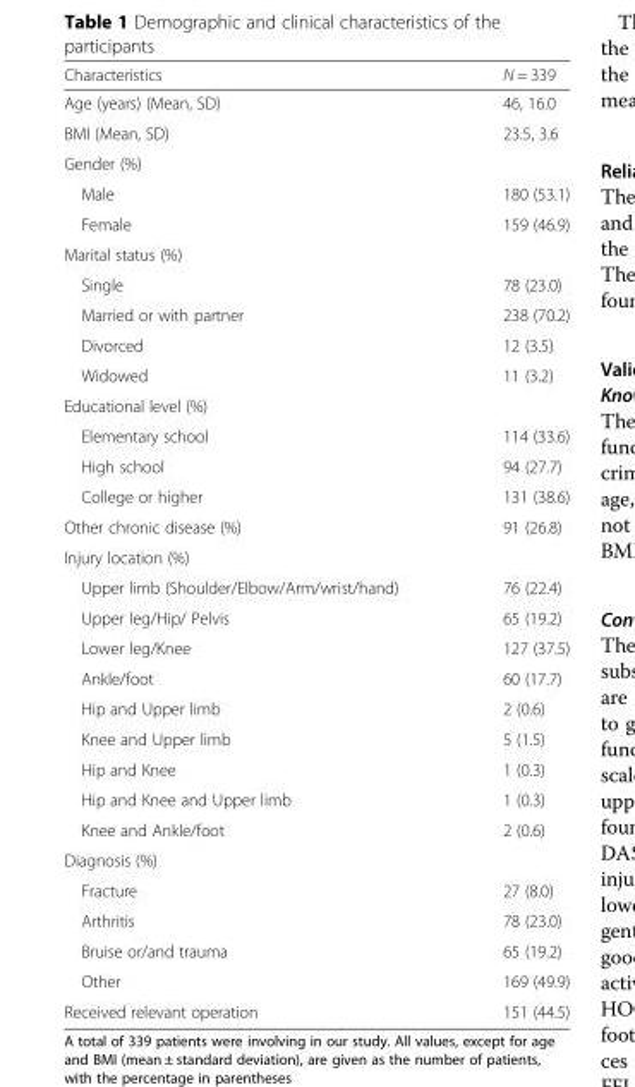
<table><thead><tr><td>Characteristics</td><td>N = 339</td></tr></thead><tbody><tr><td>Age (years) (Mean, SD)</td><td>46, 16.0</td></tr><tr><td>BMI (Mean, SD)</td><td>23.5, 3.6</td></tr><tr><td colspan="2">Gender (%)</td></tr><tr><td>Male</td><td>180 (53.1)</td></tr><tr><td>Female</td><td>159 (46.9)</td></tr><tr><td colspan="2">Marital status (%)</td></tr><tr><td>Single</td><td>78 (23.0)</td></tr><tr><td>Married or with partner</td><td>238 (70.2)</td></tr><tr><td>Divorced</td><td>12 (3.5)</td></tr><tr><td>Widowed</td><td>11 (3.2)</td></tr><tr><td colspan="2">Educational level (%)</td></tr><tr><td>Elementary school</td><td>114 (33.6)</td></tr><tr><td>High school</td><td>94 (27.7)</td></tr><tr><td>College or higher</td><td>131 (38.6)</td></tr><tr><td>Other chronic disease (%)</td><td>91 (26.8)</td></tr><tr><td colspan="2">Injury location (%)</td></tr><tr><td>Upper limb (Shoulder/Elbow/Arm/wrist/hand)</td><td>76 (22.4)</td></tr><tr><td>Upper leg/Hip/ Pelvis</td><td>65 (19.2)</td></tr><tr><td>Lower leg/Knee</td><td>127 (37.5)</td></tr><tr><td>Ankle/foot</td><td>60 (17.7)</td></tr><tr><td>Hip and Upper limb</td><td>2 (0.6)</td></tr><tr><td>Knee and Upper limb</td><td>5 (1.5)</td></tr><tr><td>Hip and Knee</td><td>1 (0.3)</td></tr><tr><td>Hip and Knee and Upper limb</td><td>1 (0.3)</td></tr><tr><td>Knee and Ankle/foot</td><td>2 (0.6)</td></tr><tr><td colspan="2">Diagnosis (%)</td></tr><tr><td>Fracture</td><td>27 (8.0)</td></tr><tr><td>Arthritis</td><td>78 (23.0)</td></tr><tr><td>Bruise or/and trauma</td><td>65 (19.2)</td></tr><tr><td>Other</td><td>169 (49.9)</td></tr><tr><td>Received relevant operation</td><td>151 (44.5)</td></tr></tbody></table>